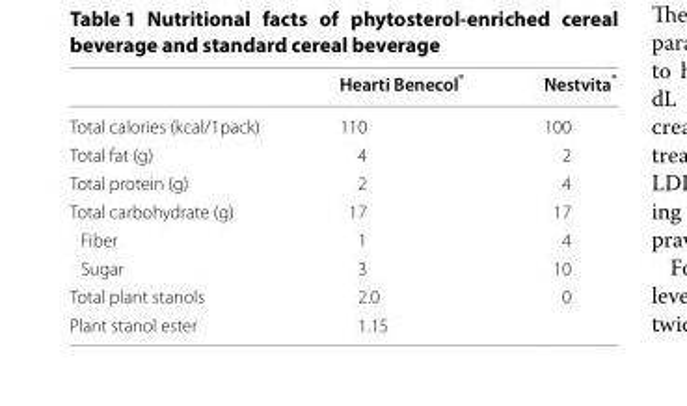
<table><thead><tr><td></td><td>Hearti Benecol<sup>®</sup></td><td>Nestvita<sup>®</sup></td></tr></thead><tbody><tr><td>Total calories (kcal/1pack)</td><td>110</td><td>100</td></tr><tr><td>Total fat (g)</td><td>4</td><td>2</td></tr><tr><td>Total protein (g)</td><td>2</td><td>4</td></tr><tr><td>Total carbohydrate (g)</td><td>17</td><td>17</td></tr><tr><td>Fiber</td><td>1</td><td>4</td></tr><tr><td>Sugar</td><td>3</td><td>10</td></tr><tr><td>Total plant stanols</td><td>2.0</td><td>0</td></tr><tr><td>Plant stanol ester</td><td>1.15</td><td></td></tr></tbody></table>